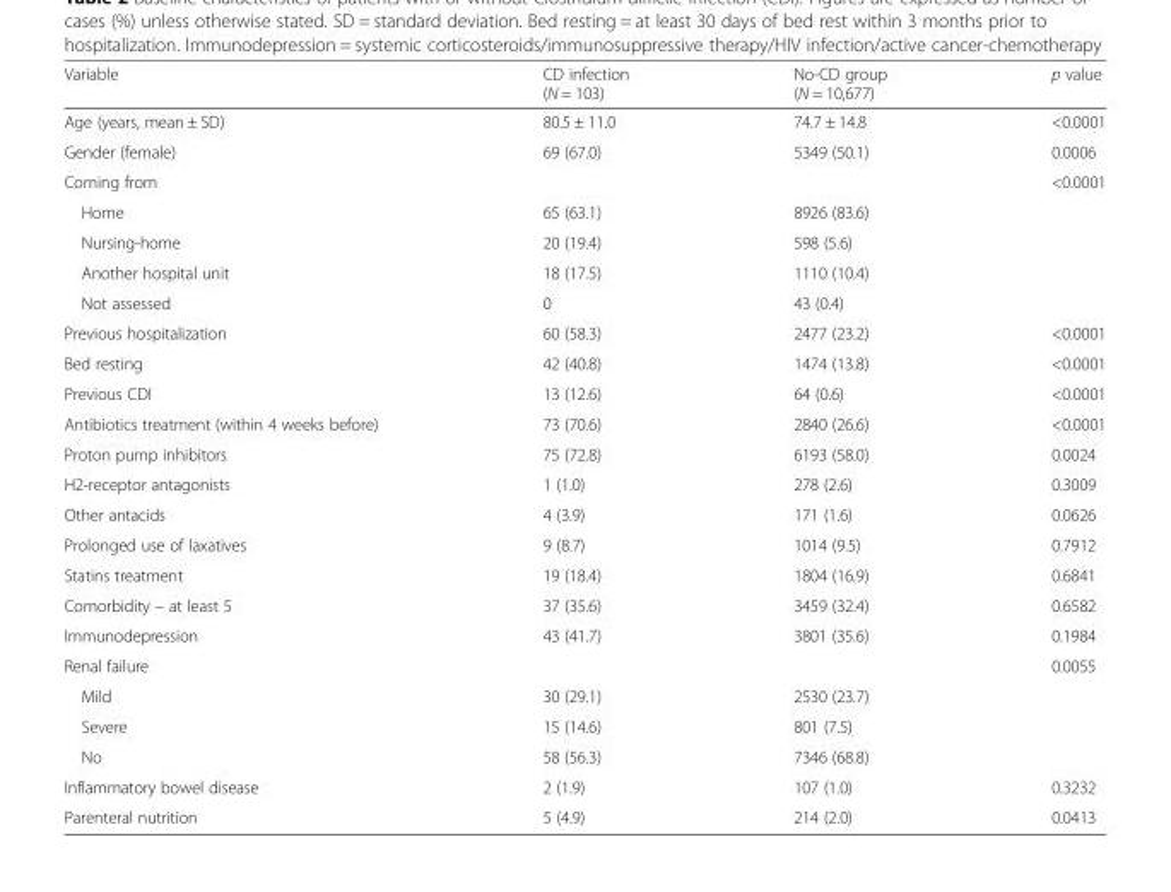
<table><thead><tr><td>Variable</td><td>CD infection (N = 103)</td><td>No-CD group (N = 10,677)</td><td>p value</td></tr></thead><tbody><tr><td>Age (years, mean ± SD)</td><td>80.5 ± 11.0</td><td>74.7 ± 14.8</td><td>&lt;0.0001</td></tr><tr><td>Gender (female)</td><td>69 (67.0)</td><td>5349 (50.1)</td><td>0.0006</td></tr><tr><td>Coming from</td><td></td><td></td><td>&lt;0.0001</td></tr><tr><td>Home</td><td>65 (63.1)</td><td>8926 (83.6)</td><td></td></tr><tr><td>Nursing-home</td><td>20 (19.4)</td><td>598 (5.6)</td><td></td></tr><tr><td>Another hospital unit</td><td>18 (17.5)</td><td>1110 (10.4)</td><td></td></tr><tr><td>Not assessed</td><td>0</td><td>43 (0.4)</td><td></td></tr><tr><td>Previous hospitalization</td><td>60 (58.3)</td><td>2477 (23.2)</td><td>&lt;0.0001</td></tr><tr><td>Bed resting</td><td>42 (40.8)</td><td>1474 (13.8)</td><td>&lt;0.0001</td></tr><tr><td>Previous CDI</td><td>13 (12.6)</td><td>64 (0.6)</td><td>&lt;0.0001</td></tr><tr><td>Antibiotics treatment (within 4 weeks before)</td><td>73 (70.6)</td><td>2840 (26.6)</td><td>&lt;0.0001</td></tr><tr><td>Proton pump inhibitors</td><td>75 (72.8)</td><td>6193 (58.0)</td><td>0.0024</td></tr><tr><td>H2-receptor antagonists</td><td>1 (1.0)</td><td>278 (2.6)</td><td>0.3009</td></tr><tr><td>Other antacids</td><td>4 (3.9)</td><td>171 (1.6)</td><td>0.0626</td></tr><tr><td>Prolonged use of laxatives</td><td>9 (8.7)</td><td>1014 (9.5)</td><td>0.7912</td></tr><tr><td>Statins treatment</td><td>19 (18.4)</td><td>1804 (16.9)</td><td>0.6841</td></tr><tr><td>Comorbidity – at least 5</td><td>37 (35.6)</td><td>3459 (32.4)</td><td>0.6582</td></tr><tr><td>Immunodepression</td><td>43 (41.7)</td><td>3801 (35.6)</td><td>0.1984</td></tr><tr><td>Renal failure</td><td></td><td></td><td>0.0055</td></tr><tr><td>Mild</td><td>30 (29.1)</td><td>2530 (23.7)</td><td></td></tr><tr><td>Severe</td><td>15 (14.6)</td><td>801 (7.5)</td><td></td></tr><tr><td>No</td><td>58 (56.3)</td><td>7346 (68.8)</td><td></td></tr><tr><td>Inflammatory bowel disease</td><td>2 (1.9)</td><td>107 (1.0)</td><td>0.3232</td></tr><tr><td>Parenteral nutrition</td><td>5 (4.9)</td><td>214 (2.0)</td><td>0.0413</td></tr></tbody></table>